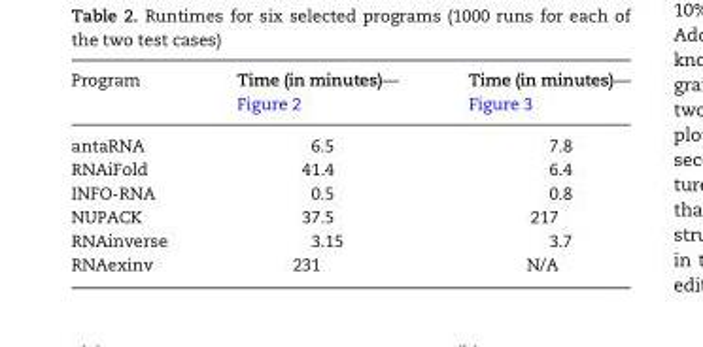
<table><thead><tr><td>Program</td><td>Time (in minutes)— Figure 2</td><td>Time (in minutes)— Figure 3</td></tr></thead><tbody><tr><td>antaRNA</td><td>6.5</td><td>7.8</td></tr><tr><td>RNAiFold</td><td>41.4</td><td>6.4</td></tr><tr><td>INFO-RNA</td><td>0.5</td><td>0.8</td></tr><tr><td>NUPACK</td><td>37.5</td><td>217</td></tr><tr><td>RNAinverse</td><td>3.15</td><td>3.7</td></tr><tr><td>RNAexinv</td><td>231</td><td>N/A</td></tr></tbody></table>